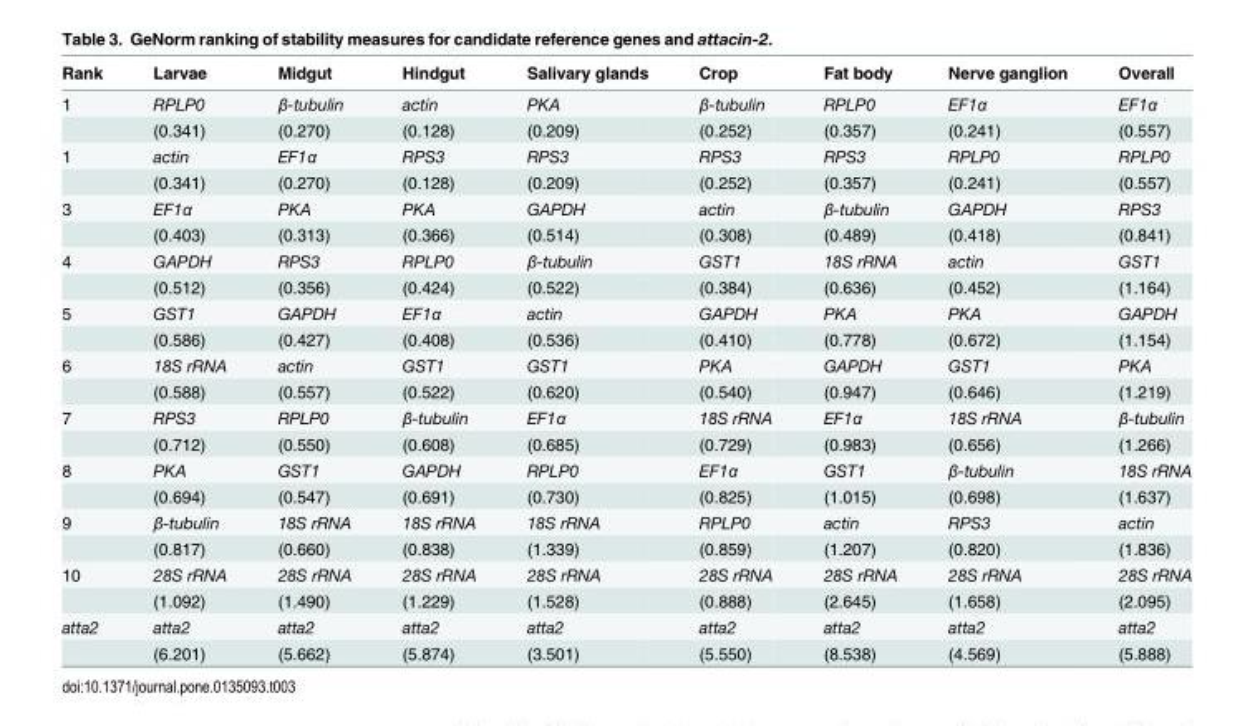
<table><thead><tr><td>Rank</td><td>Larvae</td><td>Midgut</td><td>Hindgut</td><td>Salivary glands</td><td>Crop</td><td>Fat body</td><td>Nerve ganglion</td><td>Overall</td></tr></thead><tbody><tr><td rowspan="2">1</td><td>RPLP0</td><td>β-tubulin</td><td>actin</td><td>PKA</td><td>β-tubulin</td><td>RPLP0</td><td>EF1α</td><td>EF1α</td></tr><tr><td>(0.341)</td><td>(0.270)</td><td>(0.128)</td><td>(0.209)</td><td>(0.252)</td><td>(0.357)</td><td>(0.241)</td><td>(0.557)</td></tr><tr><td rowspan="2">1</td><td>actin</td><td>EF1α</td><td>RPS3</td><td>RPS3</td><td>RPS3</td><td>RPS3</td><td>RPLP0</td><td>RPLP0</td></tr><tr><td>(0.341)</td><td>(0.270)</td><td>(0.128)</td><td>(0.209)</td><td>(0.252)</td><td>(0.357)</td><td>(0.241)</td><td>(0.557)</td></tr><tr><td rowspan="2">3</td><td>EF1α</td><td>PKA</td><td>PKA</td><td>GAPDH</td><td>actin</td><td>β-tubulin</td><td>GAPDH</td><td>RPS3</td></tr><tr><td>(0.403)</td><td>(0.313)</td><td>(0.366)</td><td>(0.514)</td><td>(0.308)</td><td>(0.489)</td><td>(0.418)</td><td>(0.841)</td></tr><tr><td rowspan="2">4</td><td>GAPDH</td><td>RPS3</td><td>RPLP0</td><td>β-tubulin</td><td>GST1</td><td>18S rRNA</td><td>actin</td><td>GST1</td></tr><tr><td>(0.512)</td><td>(0.356)</td><td>(0.424)</td><td>(0.522)</td><td>(0.384)</td><td>(0.636)</td><td>(0.452)</td><td>(1.164)</td></tr><tr><td rowspan="2">5</td><td>GST1</td><td>GAPDH</td><td>EF1α</td><td>actin</td><td>GAPDH</td><td>PKA</td><td>PKA</td><td>GAPDH</td></tr><tr><td>(0.586)</td><td>(0.427)</td><td>(0.408)</td><td>(0.536)</td><td>(0.410)</td><td>(0.778)</td><td>(0.672)</td><td>(1.154)</td></tr><tr><td rowspan="2">6</td><td>18S rRNA</td><td>actin</td><td>GST1</td><td>GST1</td><td>PKA</td><td>GAPDH</td><td>GST1</td><td>PKA</td></tr><tr><td>(0.588)</td><td>(0.557)</td><td>(0.522)</td><td>(0.620)</td><td>(0.540)</td><td>(0.947)</td><td>(0.646)</td><td>(1.219)</td></tr><tr><td rowspan="2">7</td><td>RPS3</td><td>RPLP0</td><td>β-tubulin</td><td>EF1α</td><td>18S rRNA</td><td>EF1α</td><td>18S rRNA</td><td>β-tubulin</td></tr><tr><td>(0.712)</td><td>(0.550)</td><td>(0.608)</td><td>(0.685)</td><td>(0.729)</td><td>(0.983)</td><td>(0.656)</td><td>(1.266)</td></tr><tr><td rowspan="2">8</td><td>PKA</td><td>GST1</td><td>GAPDH</td><td>RPLP0</td><td>EF1α</td><td>GST1</td><td>β-tubulin</td><td>18S rRNA</td></tr><tr><td>(0.694)</td><td>(0.547)</td><td>(0.691)</td><td>(0.730)</td><td>(0.825)</td><td>(1.015)</td><td>(0.698)</td><td>(1.637)</td></tr><tr><td rowspan="2">9</td><td>β-tubulin</td><td>18S rRNA</td><td>18S rRNA</td><td>18S rRNA</td><td>RPLP0</td><td>actin</td><td>RPS3</td><td>actin</td></tr><tr><td>(0.817)</td><td>(0.660)</td><td>(0.838)</td><td>(1.339)</td><td>(0.859)</td><td>(1.207)</td><td>(0.820)</td><td>(1.836)</td></tr><tr><td rowspan="2">10</td><td>28S rRNA</td><td>28S rRNA</td><td>28S rRNA</td><td>28S rRNA</td><td>28S rRNA</td><td>28S rRNA</td><td>28S rRNA</td><td>28S rRNA</td></tr><tr><td>(1.092)</td><td>(1.490)</td><td>(1.229)</td><td>(1.528)</td><td>(0.888)</td><td>(2.645)</td><td>(1.658)</td><td>(2.095)</td></tr><tr><td rowspan="2">atta2</td><td>atta2</td><td>atta2</td><td>atta2</td><td>atta2</td><td>atta2</td><td>atta2</td><td>atta2</td><td>atta2</td></tr><tr><td>(6.201)</td><td>(5.662)</td><td>(5.874)</td><td>(3.501)</td><td>(5.550)</td><td>(8.538)</td><td>(4.569)</td><td>(5.888)</td></tr></tbody></table>